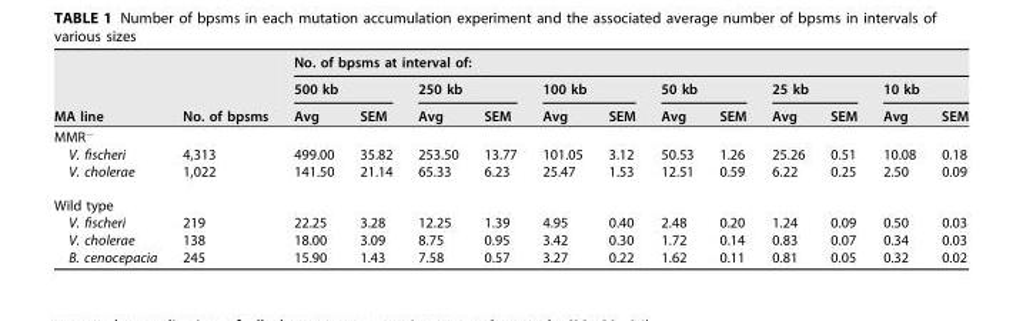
<table><thead><tr><td rowspan="3">MA line</td><td rowspan="3">No. of bpsms</td><td colspan="12">No. of bpsms at interval of:</td></tr><tr><td colspan="2">500 kb</td><td colspan="2">250 kb</td><td colspan="2">100 kb</td><td colspan="2">50 kb</td><td colspan="2">25 kb</td><td colspan="2">10 kb</td></tr><tr><td>Avg</td><td>SEM</td><td>Avg</td><td>SEM</td><td>Avg</td><td>SEM</td><td>Avg</td><td>SEM</td><td>Avg</td><td>SEM</td><td>Avg</td><td>SEM</td></tr></thead><tbody><tr><td colspan="14">MMR<sup>−</sup></td></tr><tr><td>V. fischeri</td><td>4,313</td><td>499.00</td><td>35.82</td><td>253.50</td><td>13.77</td><td>101.05</td><td>3.12</td><td>50.53</td><td>1.26</td><td>25.26</td><td>0.51</td><td>10.08</td><td>0.18</td></tr><tr><td>V. cholerae</td><td>1,022</td><td>141.50</td><td>21.14</td><td>65.33</td><td>6.23</td><td>25.47</td><td>1.53</td><td>12.51</td><td>0.59</td><td>6.22</td><td>0.25</td><td>2.50</td><td>0.09</td></tr><tr><td colspan="14">Wild type</td></tr><tr><td>V. fischeri</td><td>219</td><td>22.25</td><td>3.28</td><td>12.25</td><td>1.39</td><td>4.95</td><td>0.40</td><td>2.48</td><td>0.20</td><td>1.24</td><td>0.09</td><td>0.50</td><td>0.03</td></tr><tr><td>V. cholerae</td><td>138</td><td>18.00</td><td>3.09</td><td>8.75</td><td>0.95</td><td>3.42</td><td>0.30</td><td>1.72</td><td>0.14</td><td>0.83</td><td>0.07</td><td>0.34</td><td>0.03</td></tr><tr><td>B. cenocepacia</td><td>245</td><td>15.90</td><td>1.43</td><td>7.58</td><td>0.57</td><td>3.27</td><td>0.22</td><td>1.62</td><td>0.11</td><td>0.81</td><td>0.05</td><td>0.32</td><td>0.02</td></tr></tbody></table>